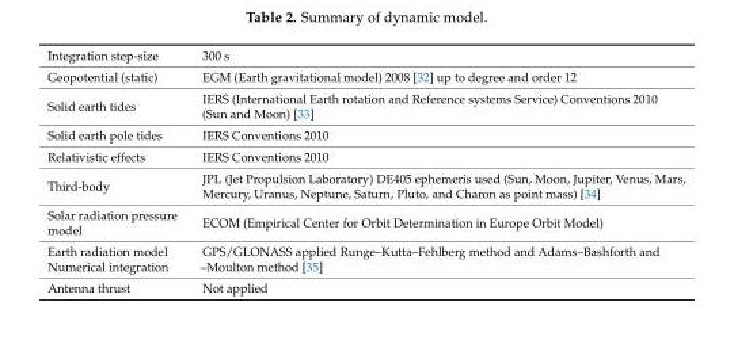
<table><tbody><tr><td>Integration step-size</td><td>300 s</td></tr><tr><td>Geopotential (static)</td><td>EGM (Earth gravitational model) 2008 [32] up to degree and order 12</td></tr><tr><td>Solid earth tides</td><td>IERS (International Earth rotation and Reference systems Service) Conventions 2010 (Sun and Moon) [33]</td></tr><tr><td>Solid earth pole tides</td><td>IERS Conventions 2010</td></tr><tr><td>Relativistic effects</td><td>IERS Conventions 2010</td></tr><tr><td>Third-body</td><td>JPL (Jet Propulsion Laboratory) DE405 ephemeris used (Sun, Moon, Jupiter, Venus, Mars, Mercury, Uranus, Neptune, Saturn, Pluto, and Charon as point mass) [34]</td></tr><tr><td>Solar radiation pressure model</td><td>ECOM (Empirical Center for Orbit Determination in Europe Orbit Model)</td></tr><tr><td>Earth radiation model Numerical integration</td><td>GPS/GLONASS applied Runge–Kutta–Fehlberg method and Adams–Bashforth and –Moulton method [35]</td></tr><tr><td>Antenna thrust</td><td>Not applied</td></tr></tbody></table>